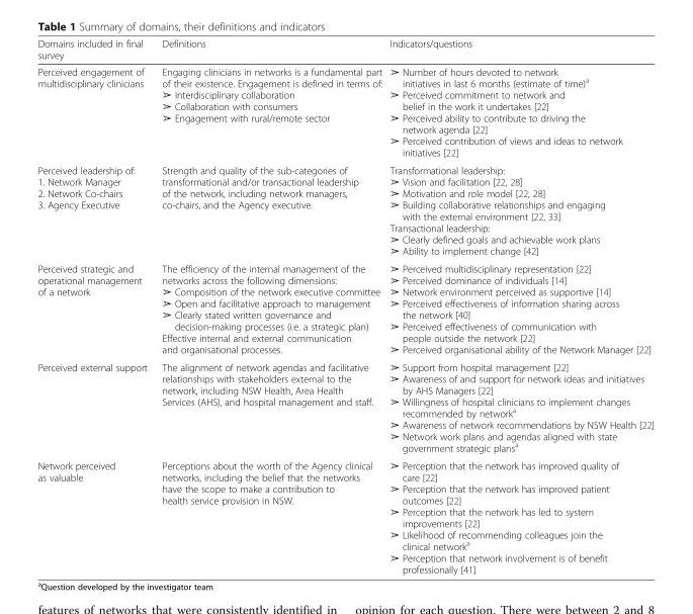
<table><thead><tr><td>Domains included in final survey</td><td>Definitions</td><td>Indicators/questions</td></tr></thead><tbody><tr><td>Perceived engagement of multidisciplinary clinicians</td><td>Engaging clinicians in networks is a fundamental part of their existence. Engagement is defined in terms of: ➢ Interdisciplinary collaboration ➢ Collaboration with consumers ➢ Engagement with rural/remote sector</td><td>➢ Number of hours devoted to network initiatives in last 6 months (estimate of time)<sup>a</sup> ➢ Perceived commitment to network and belief in the work it undertakes [22] ➢ Perceived ability to contribute to driving the network agenda [22] ➢ Perceived contribution of views and ideas to network initiatives [22]</td></tr><tr><td>Perceived leadership of: 1. Network Manager 2. Network Co-chairs 3. Agency Executive</td><td>Strength and quality of the sub-categories of transformational and/or transactional leadership of the network, including network managers, co-chairs, and the Agency executive.</td><td>Transformational leadership: ➢ Vision and facilitation [22, 28] ➢ Motivation and role model [22, 28] ➢ Building collaborative relationships and engaging with the external environment [22, 33] Transactional leadership: ➢ Clearly defined goals and achievable work plans ➢ Ability to implement change [42]</td></tr><tr><td>Perceived strategic and operational management of a network</td><td>The efficiency of the internal management of the networks across the following dimensions: ➢ Composition of the network executive committee ➢ Open and facilitative approach to management ➢ Clearly stated written governance and decision-making processes (i.e. a strategic plan) Effective internal and external communication and organisational processes.</td><td>➢ Perceived multidisciplinary representation [22] ➢ Perceived dominance of individuals [14] ➢ Network environment perceived as supportive [14] ➢ Perceived effectiveness of information sharing across the network [40] ➢ Perceived effectiveness of communication with people outside the network [22] ➢ Perceived organisational ability of the Network Manager [22]</td></tr><tr><td>Perceived external support</td><td>The alignment of network agendas and facilitative relationships with stakeholders external to the network, including NSW Health, Area Health Services (AHS), and hospital management and staff.</td><td>➢ Support from hospital management [22] ➢ Awareness of and support for network ideas and initiatives by AHS Managers [22] ➢ Willingness of hospital clinicians to implement changes recommended by network<sup>a</sup> ➢ Awareness of network recommendations by NSW Health [22] ➢ Network work plans and agendas aligned with state government strategic plans<sup>a</sup></td></tr><tr><td>Network perceived as valuable</td><td>Perceptions about the worth of the Agency clinical networks, including the belief that the networks have the scope to make a contribution to health service provision in NSW.</td><td>➢ Perception that the network has improved quality of care [22] ➢ Perception that the network has improved patient outcomes [22] ➢ Perception that the network has led to system improvements [22] ➢ Likelihood of recommending colleagues join the clinical network<sup>a</sup> ➢ Perception that network involvement is of benefit professionally [41]</td></tr></tbody></table>